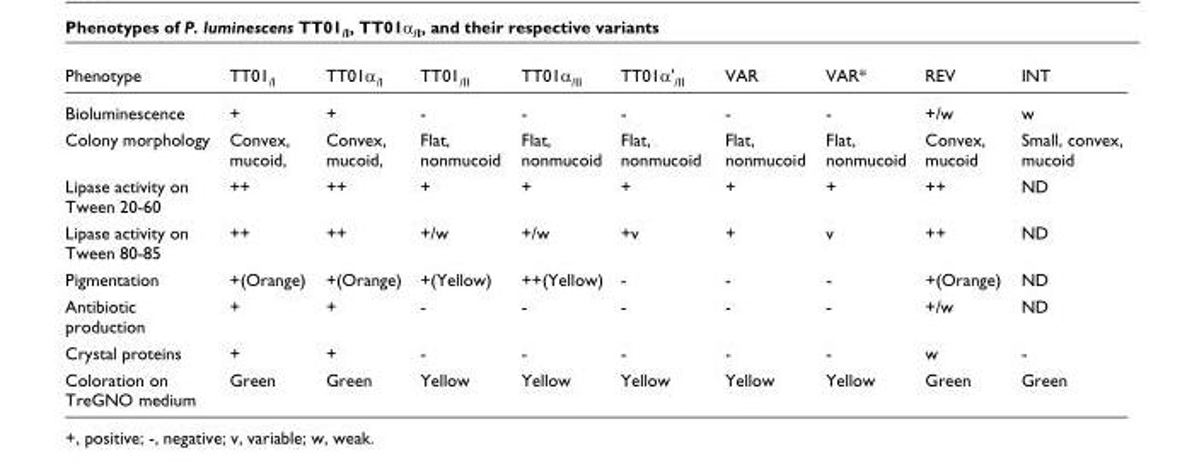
<table><thead><tr><td>Phenotype</td><td>TT01<sub>/I</sub></td><td>TT01α<sub>/I</sub></td><td>TT01<sub>/II</sub></td><td>TT01α<sub>/II</sub></td><td>TT01α&#x27;<sub>/II</sub></td><td>VAR</td><td>VAR*</td><td>REV</td><td>INT</td></tr></thead><tbody><tr><td>Bioluminescence</td><td>+</td><td>+</td><td>-</td><td>-</td><td>-</td><td>-</td><td>-</td><td>+/w</td><td>w</td></tr><tr><td>Colony morphology</td><td>Convex, mucoid,</td><td>Convex, mucoid,</td><td>Flat, nonmucoid</td><td>Flat, nonmucoid</td><td>Flat, nonmucoid</td><td>Flat, nonmucoid</td><td>Flat, nonmucoid</td><td>Convex, mucoid</td><td>Small, convex, mucoid</td></tr><tr><td>Lipase activity on Tween 20-60</td><td>++</td><td>++</td><td>+</td><td>+</td><td>+</td><td>+</td><td>+</td><td>++</td><td>ND</td></tr><tr><td>Lipase activity on Tween 80-85</td><td>++</td><td>++</td><td>+/w</td><td>+/w</td><td>+v</td><td>+</td><td>v</td><td>++</td><td>ND</td></tr><tr><td>Pigmentation</td><td>+(Orange)</td><td>+(Orange)</td><td>+(Yellow)</td><td>++(Yellow)</td><td>-</td><td>-</td><td>-</td><td>+(Orange)</td><td>ND</td></tr><tr><td>Antibiotic production</td><td>+</td><td>+</td><td>-</td><td>-</td><td>-</td><td>-</td><td>-</td><td>+/w</td><td>ND</td></tr><tr><td>Crystal proteins</td><td>+</td><td>+</td><td>-</td><td>-</td><td>-</td><td>-</td><td>-</td><td>w</td><td>-</td></tr><tr><td>Coloration on TreGNO medium</td><td>Green</td><td>Green</td><td>Yellow</td><td>Yellow</td><td>Yellow</td><td>Yellow</td><td>Yellow</td><td>Green</td><td>Green</td></tr></tbody></table>